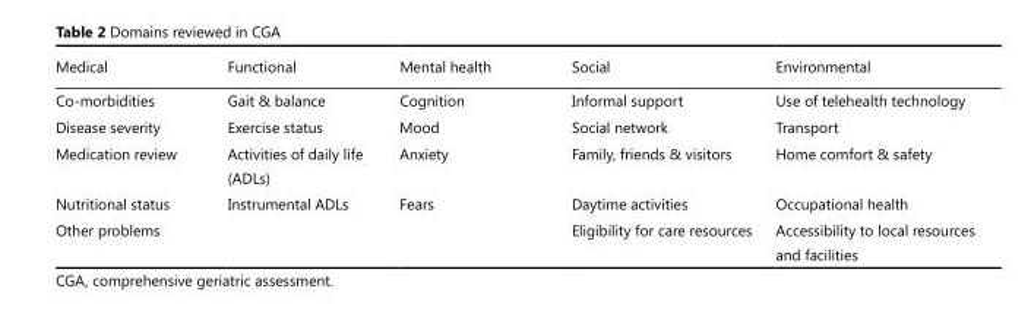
<table><thead><tr><td>Medical</td><td>Functional</td><td>Mental health</td><td>Social</td><td>Environmental</td></tr></thead><tbody><tr><td>Co-morbidities</td><td>Gait &amp; balance</td><td>Cognition</td><td>Informal support</td><td>Use of telehealth technology</td></tr><tr><td>Disease severity</td><td>Exercise status</td><td>Mood</td><td>Social network</td><td>Transport</td></tr><tr><td>Medication review</td><td>Activities of daily life (ADLs)</td><td>Anxiety</td><td>Family, friends &amp; visitors</td><td>Home comfort &amp; safety</td></tr><tr><td>Nutritional status</td><td>Instrumental ADLs</td><td>Fears</td><td>Daytime activities</td><td>Occupational health</td></tr><tr><td>Other problems</td><td></td><td></td><td>Eligibility for care resources</td><td>Accessibility to local resources and facilities</td></tr></tbody></table>